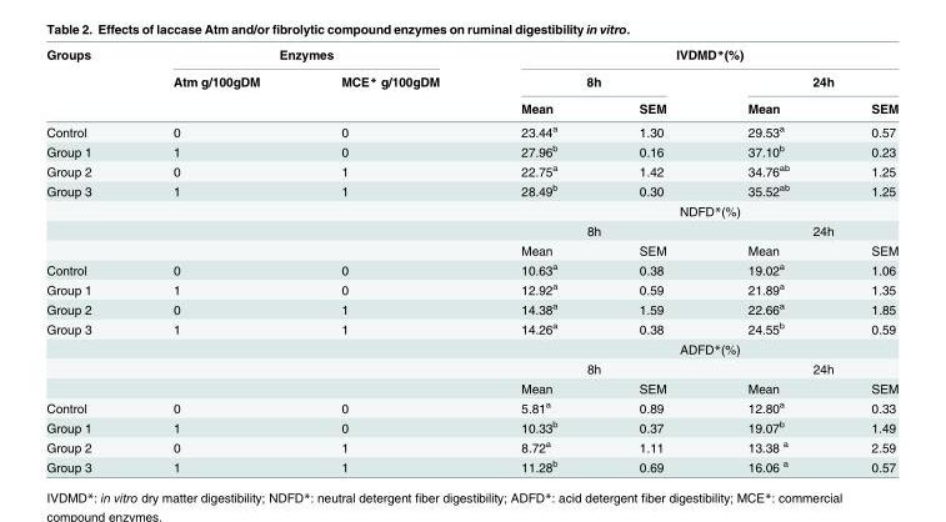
<table><thead><tr><td rowspan="3">Groups</td><td colspan="2">Enzymes</td><td colspan="4">IVDMD*(%)</td></tr><tr><td rowspan="2">Atm g/100gDM</td><td rowspan="2">MCE* g/100gDM</td><td colspan="2">8h</td><td colspan="2">24h</td></tr><tr><td>Mean</td><td>SEM</td><td>Mean</td><td>SEM</td></tr></thead><tbody><tr><td>Control</td><td>0</td><td>0</td><td>23.44<sup>a</sup></td><td>1.30</td><td>29.53<sup>a</sup></td><td>0.57</td></tr><tr><td>Group 1</td><td>1</td><td>0</td><td>27.96<sup>b</sup></td><td>0.16</td><td>37.10<sup>b</sup></td><td>0.23</td></tr><tr><td>Group 2</td><td>0</td><td>1</td><td>22.75<sup>a</sup></td><td>1.42</td><td>34.76<sup>ab</sup></td><td>1.25</td></tr><tr><td rowspan="4">Group 3</td><td>1</td><td>1</td><td>28.49<sup>b</sup></td><td>0.30</td><td>35.52<sup>ab</sup></td><td>1.25</td></tr><tr><td></td><td></td><td colspan="4">NDFD*(%)</td></tr><tr><td></td><td></td><td colspan="2">8h</td><td colspan="2">24h</td></tr><tr><td></td><td></td><td>Mean</td><td>SEM</td><td>Mean</td><td>SEM</td></tr><tr><td>Control</td><td>0</td><td>0</td><td>10.63<sup>a</sup></td><td>0.38</td><td>19.02<sup>a</sup></td><td>1.06</td></tr><tr><td>Group 1</td><td>1</td><td>0</td><td>12.92<sup>a</sup></td><td>0.59</td><td>21.89<sup>a</sup></td><td>1.35</td></tr><tr><td>Group 2</td><td>0</td><td>1</td><td>14.38<sup>a</sup></td><td>1.59</td><td>22.66<sup>a</sup></td><td>1.85</td></tr><tr><td rowspan="4">Group 3</td><td>1</td><td>1</td><td>14.26<sup>a</sup></td><td>0.38</td><td>24.55<sup>b</sup></td><td>0.59</td></tr><tr><td></td><td></td><td colspan="4">ADFD*(%)</td></tr><tr><td></td><td></td><td colspan="2">8h</td><td colspan="2">24h</td></tr><tr><td></td><td></td><td>Mean</td><td>SEM</td><td>Mean</td><td>SEM</td></tr><tr><td>Control</td><td>0</td><td>0</td><td>5.81<sup>a</sup></td><td>0.89</td><td>12.80<sup>a</sup></td><td>0.33</td></tr><tr><td>Group 1</td><td>1</td><td>0</td><td>10.33<sup>b</sup></td><td>0.37</td><td>19.07<sup>b</sup></td><td>1.49</td></tr><tr><td>Group 2</td><td>0</td><td>1</td><td>8.72<sup>a</sup></td><td>1.11</td><td>13.38 <sup>a</sup></td><td>2.59</td></tr><tr><td>Group 3</td><td>1</td><td>1</td><td>11.28<sup>b</sup></td><td>0.69</td><td>16.06 <sup>a</sup></td><td>0.57</td></tr></tbody></table>